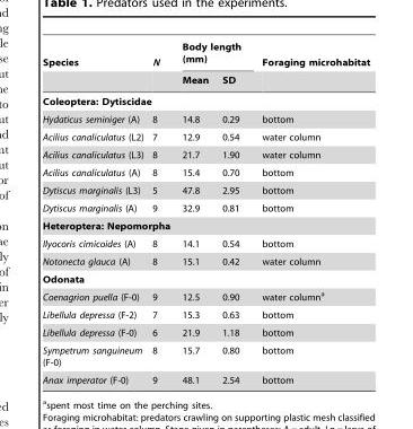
<table><thead><tr><td rowspan="2">Species</td><td rowspan="2">N</td><td colspan="2">Body length (mm)</td><td rowspan="2">Foraging microhabitat</td></tr><tr><td>Mean</td><td>SD</td></tr></thead><tbody><tr><td colspan="5">Coleoptera: Dytiscidae</td></tr><tr><td>Hydaticus seminiger (A)</td><td>8</td><td>14.8</td><td>0.29</td><td>bottom</td></tr><tr><td>Acilius canaliculatus (L2)</td><td>7</td><td>12.9</td><td>0.54</td><td>water column</td></tr><tr><td>Acilius canaliculatus (L3)</td><td>8</td><td>21.7</td><td>1.90</td><td>water column</td></tr><tr><td>Acilius canaliculatus (A)</td><td>8</td><td>15.4</td><td>0.70</td><td>bottom</td></tr><tr><td>Dytiscus marginalis (L3)</td><td>5</td><td>47.8</td><td>2.95</td><td>bottom</td></tr><tr><td>Dytiscus marginalis (A)</td><td>9</td><td>32.9</td><td>0.81</td><td>bottom</td></tr><tr><td colspan="5">Heteroptera: Nepomorpha</td></tr><tr><td>Ilyocoris cimicoides (A)</td><td>8</td><td>14.1</td><td>0.54</td><td>bottom</td></tr><tr><td>Notonecta glauca (A)</td><td>8</td><td>15.1</td><td>0.42</td><td>water column</td></tr><tr><td colspan="5">Odonata</td></tr><tr><td>Coenagrion puella (F-0)</td><td>9</td><td>12.5</td><td>0.90</td><td>water column<sup>a</sup></td></tr><tr><td>Libellula depressa (F-2)</td><td>7</td><td>15.3</td><td>0.63</td><td>bottom</td></tr><tr><td>Libellula depressa (F-0)</td><td>6</td><td>21.9</td><td>1.18</td><td>bottom</td></tr><tr><td>Sympetrum sanguineum (F-0)</td><td>8</td><td>15.7</td><td>0.80</td><td>bottom</td></tr><tr><td>Anax imperator (F-0)</td><td>9</td><td>48.1</td><td>2.54</td><td>bottom</td></tr></tbody></table>